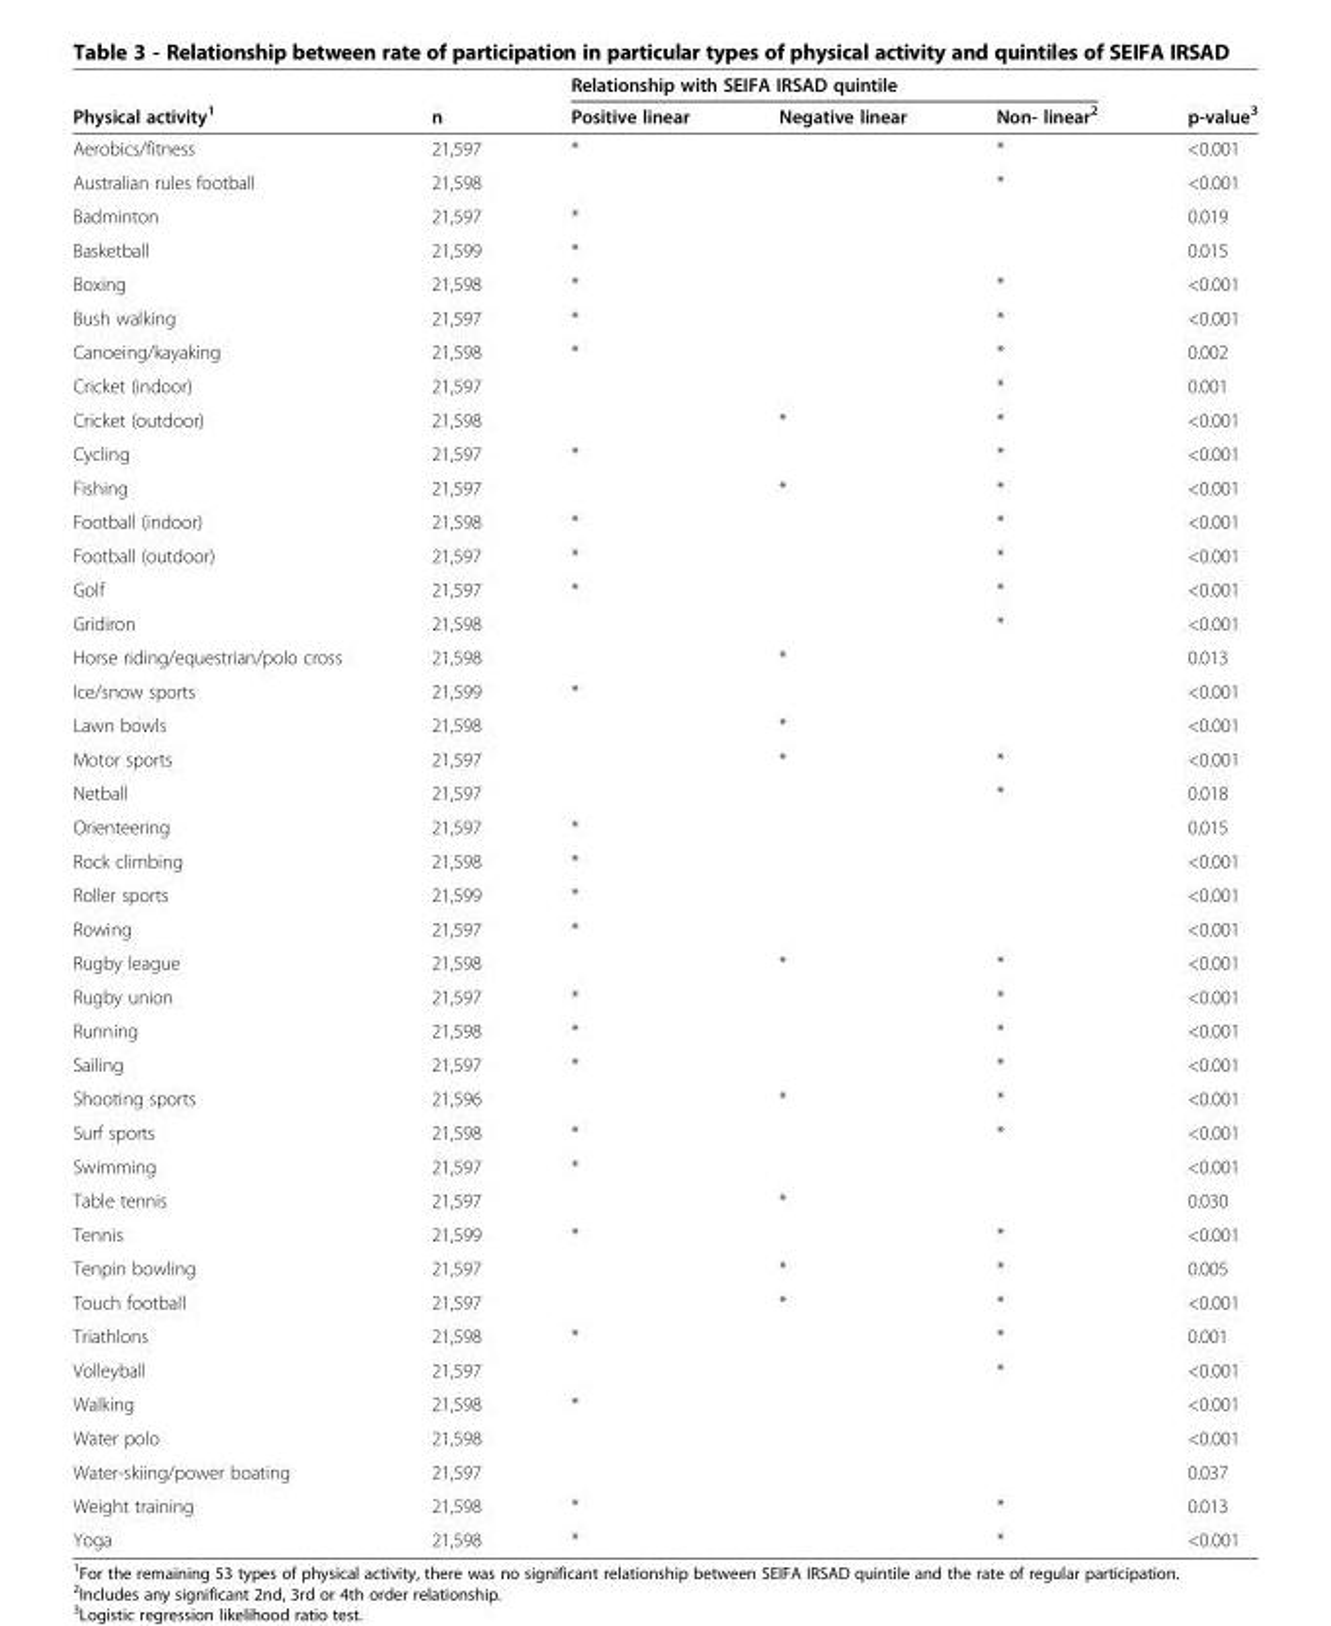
<table><thead><tr><td rowspan="2">Physical activity<sup>1</sup></td><td rowspan="2">n</td><td colspan="3">Relationship with SEIFA IRSAD quintile</td><td rowspan="2">p-value<sup>3</sup></td></tr><tr><td>Positive linear</td><td>Negative linear</td><td>Non- linear<sup>2</sup></td></tr></thead><tbody><tr><td>Aerobics/fitness</td><td>21,597</td><td>*</td><td></td><td>*</td><td>&lt;0.001</td></tr><tr><td>Australian rules football</td><td>21,598</td><td></td><td></td><td>*</td><td>&lt;0.001</td></tr><tr><td>Badminton</td><td>21,597</td><td>*</td><td></td><td></td><td>0.019</td></tr><tr><td>Basketball</td><td>21,599</td><td>*</td><td></td><td></td><td>0.015</td></tr><tr><td>Boxing</td><td>21,598</td><td>*</td><td></td><td>*</td><td>&lt;0.001</td></tr><tr><td>Bush walking</td><td>21,597</td><td>*</td><td></td><td>*</td><td>&lt;0.001</td></tr><tr><td>Canoeing/kayaking</td><td>21,598</td><td>*</td><td></td><td>*</td><td>0.002</td></tr><tr><td>Cricket (indoor)</td><td>21,597</td><td></td><td></td><td>*</td><td>0.001</td></tr><tr><td>Cricket (outdoor)</td><td>21,598</td><td></td><td>*</td><td>*</td><td>&lt;0.001</td></tr><tr><td>Cycling</td><td>21,597</td><td>*</td><td></td><td>*</td><td>&lt;0.001</td></tr><tr><td>Fishing</td><td>21,597</td><td></td><td>*</td><td>*</td><td>&lt;0.001</td></tr><tr><td>Football (indoor)</td><td>21,598</td><td>*</td><td></td><td>*</td><td>&lt;0.001</td></tr><tr><td>Football (outdoor)</td><td>21,597</td><td>*</td><td></td><td>*</td><td>&lt;0.001</td></tr><tr><td>Golf</td><td>21,597</td><td>*</td><td></td><td>*</td><td>&lt;0.001</td></tr><tr><td>Gridiron</td><td>21,598</td><td></td><td></td><td>*</td><td>&lt;0.001</td></tr><tr><td>Horse riding/equestrian/polo cross</td><td>21,598</td><td></td><td>*</td><td></td><td>0.013</td></tr><tr><td>Ice/snow sports</td><td>21,599</td><td>*</td><td></td><td></td><td>&lt;0.001</td></tr><tr><td>Lawn bowls</td><td>21,598</td><td></td><td>*</td><td></td><td>&lt;0.001</td></tr><tr><td>Motor sports</td><td>21,597</td><td></td><td>*</td><td>*</td><td>&lt;0.001</td></tr><tr><td>Netball</td><td>21,597</td><td></td><td></td><td>*</td><td>0.018</td></tr><tr><td>Orienteering</td><td>21,597</td><td>*</td><td></td><td></td><td>0.015</td></tr><tr><td>Rock climbing</td><td>21,598</td><td>*</td><td></td><td></td><td>&lt;0.001</td></tr><tr><td>Roller sports</td><td>21,599</td><td>*</td><td></td><td></td><td>&lt;0.001</td></tr><tr><td>Rowing</td><td>21,597</td><td>*</td><td></td><td></td><td>&lt;0.001</td></tr><tr><td>Rugby league</td><td>21,598</td><td></td><td>*</td><td>*</td><td>&lt;0.001</td></tr><tr><td>Rugby union</td><td>21,597</td><td>*</td><td></td><td>*</td><td>&lt;0.001</td></tr><tr><td>Running</td><td>21,598</td><td>*</td><td></td><td>*</td><td>&lt;0.001</td></tr><tr><td>Sailing</td><td>21,597</td><td>*</td><td></td><td>*</td><td>&lt;0.001</td></tr><tr><td>Shooting sports</td><td>21,596</td><td></td><td>*</td><td>*</td><td>&lt;0.001</td></tr><tr><td>Surf sports</td><td>21,598</td><td>*</td><td></td><td>*</td><td>&lt;0.001</td></tr><tr><td>Swimming</td><td>21,597</td><td>*</td><td></td><td></td><td>&lt;0.001</td></tr><tr><td>Table tennis</td><td>21,597</td><td></td><td>*</td><td></td><td>0.030</td></tr><tr><td>Tennis</td><td>21,599</td><td>*</td><td></td><td>*</td><td>&lt;0.001</td></tr><tr><td>Tenpin bowling</td><td>21,597</td><td></td><td>*</td><td>*</td><td>0.005</td></tr><tr><td>Touch football</td><td>21,597</td><td></td><td>*</td><td>*</td><td>&lt;0.001</td></tr><tr><td>Triathlons</td><td>21,598</td><td>*</td><td></td><td>*</td><td>0.001</td></tr><tr><td>Volleyball</td><td>21,597</td><td></td><td></td><td>*</td><td>&lt;0.001</td></tr><tr><td>Walking</td><td>21,598</td><td>*</td><td></td><td></td><td>&lt;0.001</td></tr><tr><td>Water polo</td><td>21,598</td><td></td><td></td><td></td><td>&lt;0.001</td></tr><tr><td>Water-skiing/power boating</td><td>21,597</td><td></td><td></td><td></td><td>0.037</td></tr><tr><td>Weight training</td><td>21,598</td><td>*</td><td></td><td>*</td><td>0.013</td></tr><tr><td>Yoga</td><td>21,598</td><td>*</td><td></td><td>*</td><td>&lt;0.001</td></tr></tbody></table>